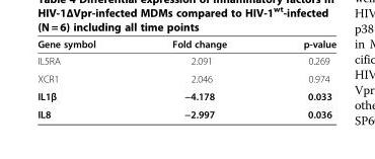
<table><thead><tr><td>Gene symbol</td><td>Fold change</td><td>p-value</td></tr></thead><tbody><tr><td>IL5RA</td><td>2.091</td><td>0.269</td></tr><tr><td>XCR1</td><td>2.046</td><td>0.974</td></tr><tr><td>IL1β</td><td>−4.178</td><td>0.033</td></tr><tr><td>IL8</td><td>−2.997</td><td>0.036</td></tr></tbody></table>